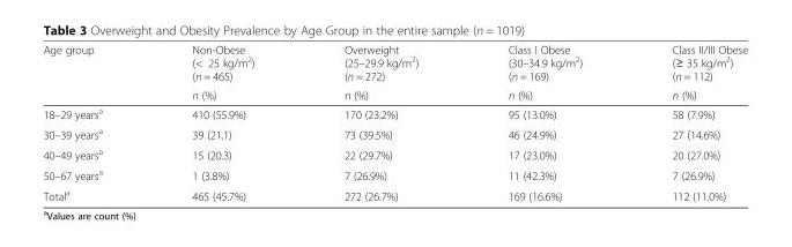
<table><thead><tr><td rowspan="2">Age group</td><td rowspan="2">Non-Obese (&lt; 25 kg/m<sup>2</sup>) (n = 465) n (%)</td><td rowspan="2">Overweight (25–29.9 kg/m<sup>2</sup>) (n = 272) n (%)</td><td rowspan="2">Class I Obese (30–34.9 kg/m<sup>2</sup>) (n = 169) n (%)</td><td rowspan="2">Class II/III Obese (≥ 35 kg/m<sup>2</sup>) (n = 112) n (%)</td></tr><tr></tr></thead><tbody><tr><td>18–29 years<sup>a</sup></td><td>410 (55.9%)</td><td>170 (23.2%)</td><td>95 (13.0%)</td><td>58 (7.9%)</td></tr><tr><td>30–39 years<sup>a</sup></td><td>39 (21.1)</td><td>73 (39.5%)</td><td>46 (24.9%)</td><td>27 (14.6%)</td></tr><tr><td>40–49 years<sup>a</sup></td><td>15 (20.3)</td><td>22 (29.7%)</td><td>17 (23.0%)</td><td>20 (27.0%)</td></tr><tr><td>50–67 years<sup>a</sup></td><td>1 (3.8%)</td><td>7 (26.9%)</td><td>11 (42.3%)</td><td>7 (26.9%)</td></tr><tr><td>Total<sup>a</sup></td><td>465 (45.7%)</td><td>272 (26.7%)</td><td>169 (16.6%)</td><td>112 (11.0%)</td></tr></tbody></table>